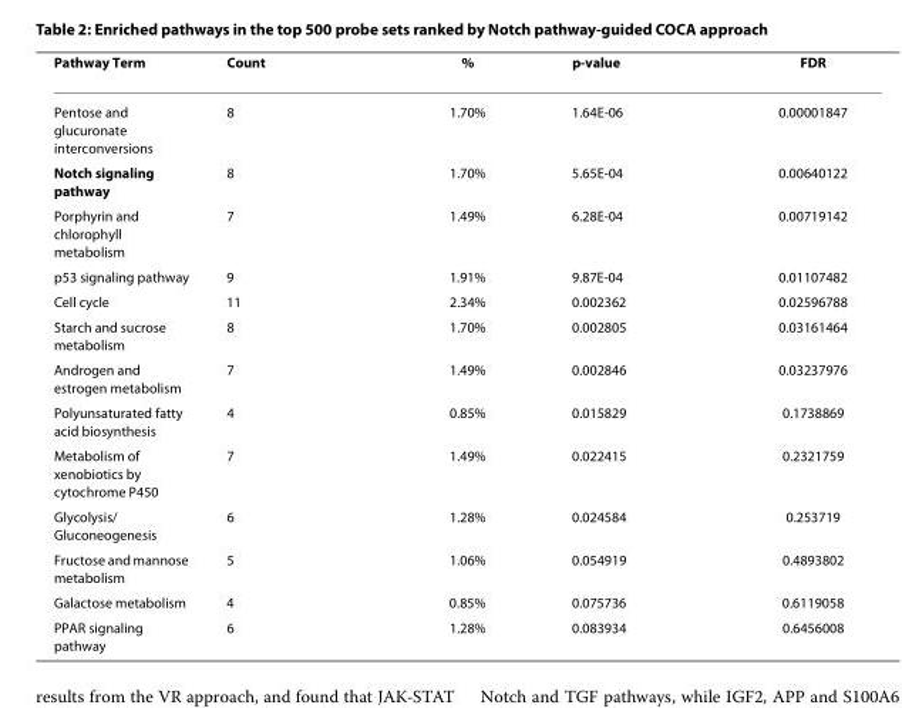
<table><thead><tr><td>Pathway Term</td><td>Count</td><td>%</td><td>p-value</td><td>FDR</td></tr></thead><tbody><tr><td>Pentose and glucuronate interconversions</td><td>8</td><td>1.70%</td><td>1.64E-06</td><td>0.00001847</td></tr><tr><td>Notch signaling pathway</td><td>8</td><td>1.70%</td><td>5.65E-04</td><td>0.00640122</td></tr><tr><td>Porphyrin and chlorophyll metabolism</td><td>7</td><td>1.49%</td><td>6.28E-04</td><td>0.00719142</td></tr><tr><td>p53 signaling pathway</td><td>9</td><td>1.91%</td><td>9.87E-04</td><td>0.01107482</td></tr><tr><td>Cell cycle</td><td>11</td><td>2.34%</td><td>0.002362</td><td>0.02596788</td></tr><tr><td>Starch and sucrose metabolism</td><td>8</td><td>1.70%</td><td>0.002805</td><td>0.03161464</td></tr><tr><td>Androgen and estrogen metabolism</td><td>7</td><td>1.49%</td><td>0.002846</td><td>0.03237976</td></tr><tr><td>Polyunsaturated fatty acid biosynthesis</td><td>4</td><td>0.85%</td><td>0.015829</td><td>0.1738869</td></tr><tr><td>Metabolism of xenobiotics by cytochrome P450</td><td>7</td><td>1.49%</td><td>0.022415</td><td>0.2321759</td></tr><tr><td>Glycolysis/ Gluconeogenesis</td><td>6</td><td>1.28%</td><td>0.024584</td><td>0.253719</td></tr><tr><td>Fructose and mannose metabolism</td><td>5</td><td>1.06%</td><td>0.054919</td><td>0.4893802</td></tr><tr><td>Galactose metabolism</td><td>4</td><td>0.85%</td><td>0.075736</td><td>0.6119058</td></tr><tr><td>PPAR signaling pathway</td><td>6</td><td>1.28%</td><td>0.083934</td><td>0.6456008</td></tr></tbody></table>